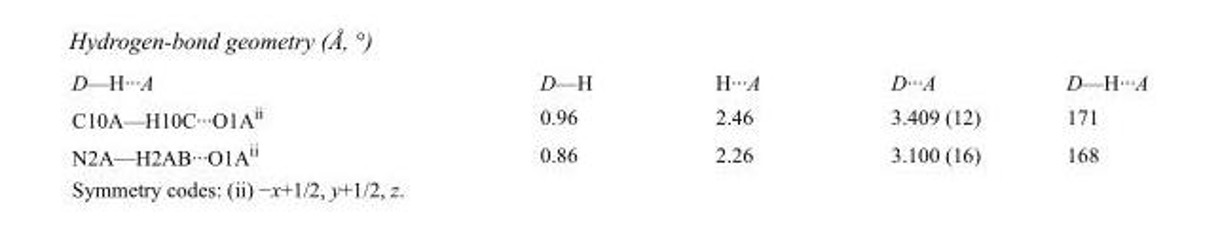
<table><tbody><tr><td>D—H···A</td><td>D—H</td><td>H···A</td><td>D···A</td><td>D—H···A</td></tr><tr><td>C10A—H10C···O1A<sup>ii</sup></td><td>0.96</td><td>2.46</td><td>3.409 (12)</td><td>171</td></tr><tr><td>N2A—H2AB···O1A<sup>ii</sup></td><td>0.86</td><td>2.26</td><td>3.100 (16)</td><td>168</td></tr></tbody></table>